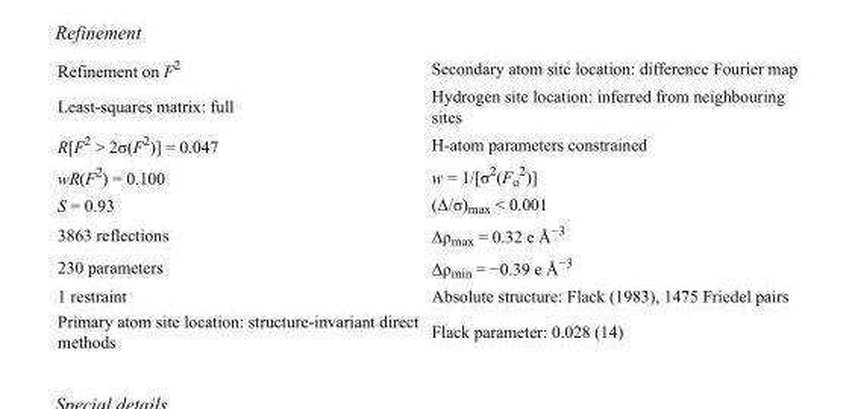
<table><tbody><tr><td>Refinement on F<sup>2</sup></td><td>Secondary atom site location: difference Fourier map</td></tr><tr><td>Least-squares matrix: full</td><td>Hydrogen site location: inferred from neighbouring sites</td></tr><tr><td>R[F<sup>2</sup> &gt; 2σ(F<sup>2</sup>)] = 0.047</td><td>H-atom parameters constrained</td></tr><tr><td>wR(F<sup>2</sup>) = 0.100</td><td>w = 1/[σ<sup>2</sup>(F<sub>o</sub> <sup>2</sup>)]</td></tr><tr><td>S = 0.93</td><td>(Δ/σ)<sub>max</sub> &lt; 0.001</td></tr><tr><td>3863 reflections</td><td>Δρ<sub>max</sub> = 0.32 e Å<sup>−3</sup></td></tr><tr><td>230 parameters</td><td>Δρ<sub>min</sub> = −0.39 e Å<sup>−3</sup></td></tr><tr><td>1 restraint</td><td>Absolute structure: Flack (1983), 1475 Friedel pairs</td></tr><tr><td>Primary atom site location: structure-invariant direct methods</td><td>Flack parameter: 0.028 (14)</td></tr></tbody></table>